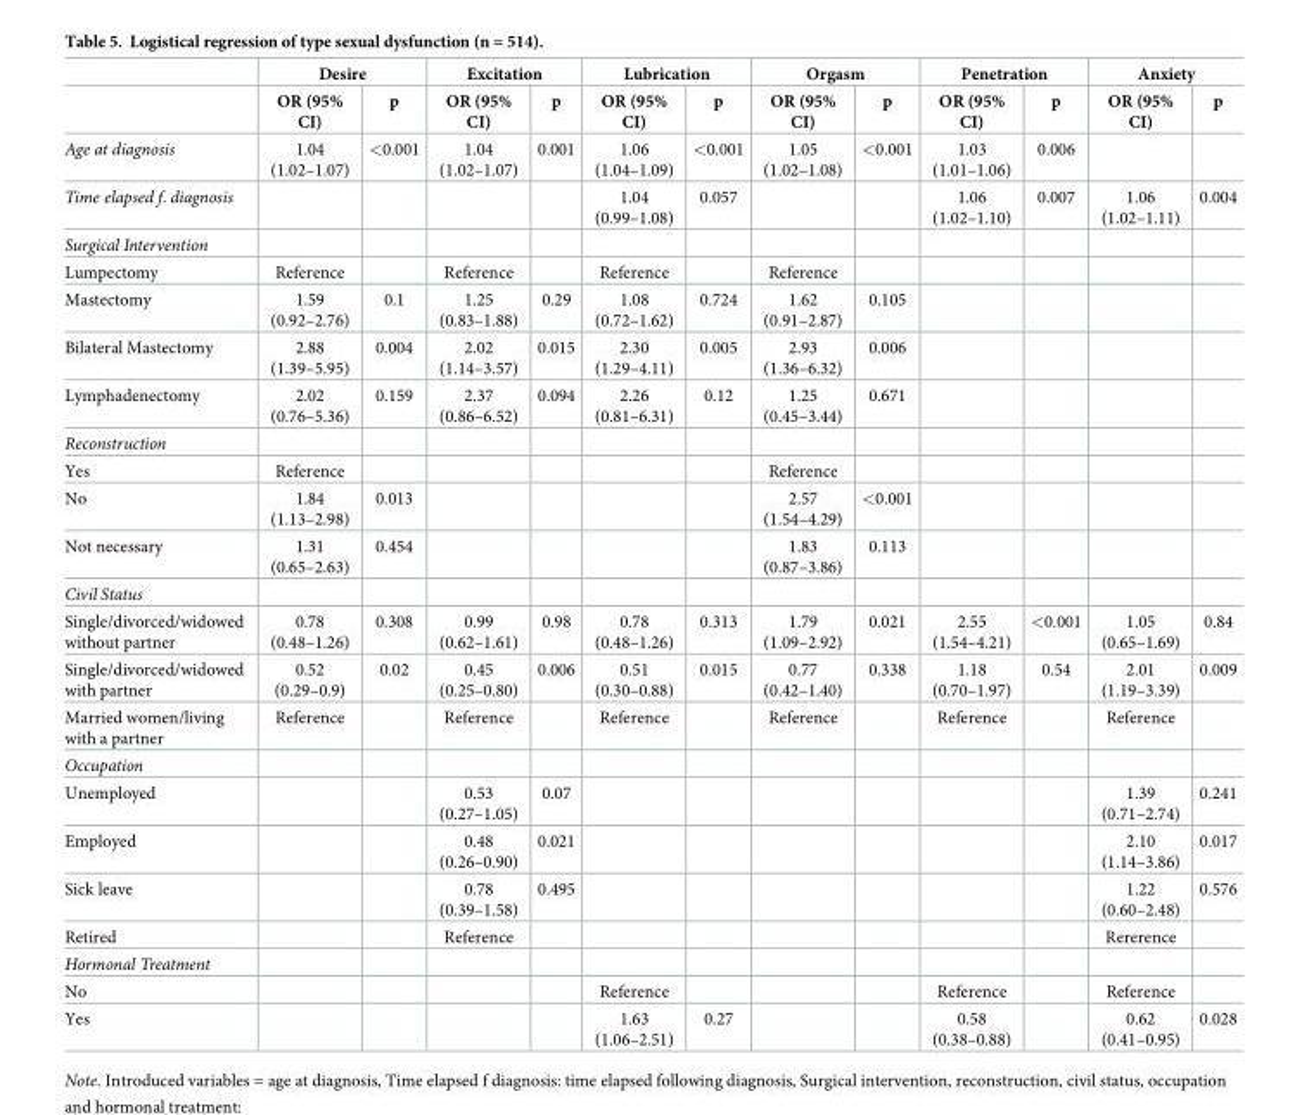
<table><thead><tr><td rowspan="2"></td><td colspan="2">Desire</td><td colspan="2">Excitation</td><td colspan="2">Lubrication</td><td colspan="2">Orgasm</td><td colspan="2">Penetration</td><td colspan="2">Anxiety</td></tr><tr><td>OR (95% CI)</td><td>p</td><td>OR (95% CI)</td><td>p</td><td>OR (95% CI)</td><td>p</td><td>OR (95% CI)</td><td>p</td><td>OR (95% CI)</td><td>p</td><td>OR (95% CI)</td><td>p</td></tr></thead><tbody><tr><td>Age at diagnosis</td><td>1.04 (1.02–1.07)</td><td>&lt;0.001</td><td>1.04 (1.02–1.07)</td><td>0.001</td><td>1.06 (1.04–1.09)</td><td>&lt;0.001</td><td>1.05 (1.02–1.08)</td><td>&lt;0.001</td><td>1.03 (1.01–1.06)</td><td>0.006</td><td></td><td></td></tr><tr><td>Time elapsed f. diagnosis</td><td></td><td></td><td></td><td></td><td>1.04 (0.99–1.08)</td><td>0.057</td><td></td><td></td><td>1.06 (1.02–1.10)</td><td>0.007</td><td>1.06 (1.02–1.11)</td><td>0.004</td></tr><tr><td colspan="13">Surgical Intervention</td></tr><tr><td>Lumpectomy</td><td>Reference</td><td></td><td>Reference</td><td></td><td>Reference</td><td></td><td>Reference</td><td></td><td></td><td></td><td></td><td></td></tr><tr><td>Mastectomy</td><td>1.59 (0.92–2.76)</td><td>0.1</td><td>1.25 (0.83–1.88)</td><td>0.29</td><td>1.08 (0.72–1.62)</td><td>0.724</td><td>1.62 (0.91–2.87)</td><td>0.105</td><td></td><td></td><td></td><td></td></tr><tr><td>Bilateral Mastectomy</td><td>2.88 (1.39–5.95)</td><td>0.004</td><td>2.02 (1.14–3.57)</td><td>0.015</td><td>2.30 (1.29–4.11)</td><td>0.005</td><td>2.93 (1.36–6.32)</td><td>0.006</td><td></td><td></td><td></td><td></td></tr><tr><td>Lymphadenectomy</td><td>2.02 (0.76–5.36)</td><td>0.159</td><td>2.37 (0.86–6.52)</td><td>0.094</td><td>2.26 (0.81–6.31)</td><td>0.12</td><td>1.25 (0.45–3.44)</td><td>0.671</td><td></td><td></td><td></td><td></td></tr><tr><td colspan="13">Reconstruction</td></tr><tr><td>Yes</td><td>Reference</td><td></td><td></td><td></td><td></td><td></td><td>Reference</td><td></td><td></td><td></td><td></td><td></td></tr><tr><td>No</td><td>1.84 (1.13–2.98)</td><td>0.013</td><td></td><td></td><td></td><td></td><td>2.57 (1.54–4.29)</td><td>&lt;0.001</td><td></td><td></td><td></td><td></td></tr><tr><td>Not necessary</td><td>1.31 (0.65–2.63)</td><td>0.454</td><td></td><td></td><td></td><td></td><td>1.83 (0.87–3.86)</td><td>0.113</td><td></td><td></td><td></td><td></td></tr><tr><td colspan="13">Civil Status</td></tr><tr><td>Single/divorced/widowed without partner</td><td>0.78 (0.48–1.26)</td><td>0.308</td><td>0.99 (0.62–1.61)</td><td>0.98</td><td>0.78 (0.48–1.26)</td><td>0.313</td><td>1.79 (1.09–2.92)</td><td>0.021</td><td>2.55 (1.54–4.21)</td><td>&lt;0.001</td><td>1.05 (0.65–1.69)</td><td>0.84</td></tr><tr><td>Single/divorced/widowed with partner</td><td>0.52 (0.29–0.9)</td><td>0.02</td><td>0.45 (0.25–0.80)</td><td>0.006</td><td>0.51 (0.30–0.88)</td><td>0.015</td><td>0.77 (0.42–1.40)</td><td>0.338</td><td>1.18 (0.70–1.97)</td><td>0.54</td><td>2.01 (1.19–3.39)</td><td>0.009</td></tr><tr><td>Married women/living with a partner</td><td>Reference</td><td></td><td>Reference</td><td></td><td>Reference</td><td></td><td>Reference</td><td></td><td>Reference</td><td></td><td>Reference</td><td></td></tr><tr><td colspan="13">Occupation</td></tr><tr><td>Unemployed</td><td></td><td></td><td>0.53 (0.27–1.05)</td><td>0.07</td><td></td><td></td><td></td><td></td><td></td><td></td><td>1.39 (0.71–2.74)</td><td>0.241</td></tr><tr><td>Employed</td><td></td><td></td><td>0.48 (0.26–0.90)</td><td>0.021</td><td></td><td></td><td></td><td></td><td></td><td></td><td>2.10 (1.14–3.86)</td><td>0.017</td></tr><tr><td>Sick leave</td><td></td><td></td><td>0.78 (0.39–1.58)</td><td>0.495</td><td></td><td></td><td></td><td></td><td></td><td></td><td>1.22 (0.60–2.48)</td><td>0.576</td></tr><tr><td>Retired</td><td></td><td></td><td>Reference</td><td></td><td></td><td></td><td></td><td></td><td></td><td></td><td>Rererence</td><td></td></tr><tr><td colspan="13">Hormonal Treatment</td></tr><tr><td>No</td><td></td><td></td><td></td><td></td><td>Reference</td><td></td><td></td><td></td><td>Reference</td><td></td><td>Reference</td><td></td></tr><tr><td>Yes</td><td></td><td></td><td></td><td></td><td>1.63 (1.06–2.51)</td><td>0.27</td><td></td><td></td><td>0.58 (0.38–0.88)</td><td></td><td>0.62 (0.41–0.95)</td><td>0.028</td></tr></tbody></table>